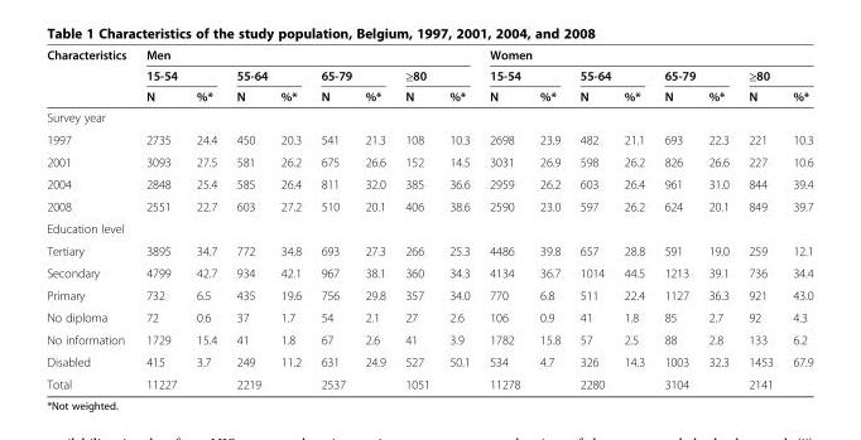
<table><thead><tr><td rowspan="3">Characteristics</td><td colspan="8">Men</td><td colspan="8">Women</td></tr><tr><td colspan="2">15-54</td><td colspan="2">55-64</td><td colspan="2">65-79</td><td colspan="2">≥80</td><td colspan="2">15-54</td><td colspan="2">55-64</td><td colspan="2">65-79</td><td colspan="2">≥80</td></tr><tr><td>N</td><td>%*</td><td>N</td><td>%*</td><td>N</td><td>%*</td><td>N</td><td>%*</td><td>N</td><td>%*</td><td>N</td><td>%*</td><td>N</td><td>%*</td><td>N</td><td>%*</td></tr></thead><tbody><tr><td colspan="17">Survey year</td></tr><tr><td>1997</td><td>2735</td><td>24.4</td><td>450</td><td>20.3</td><td>541</td><td>21.3</td><td>108</td><td>10.3</td><td>2698</td><td>23.9</td><td>482</td><td>21.1</td><td>693</td><td>22.3</td><td>221</td><td>10.3</td></tr><tr><td>2001</td><td>3093</td><td>27.5</td><td>581</td><td>26.2</td><td>675</td><td>26.6</td><td>152</td><td>14.5</td><td>3031</td><td>26.9</td><td>598</td><td>26.2</td><td>826</td><td>26.6</td><td>227</td><td>10.6</td></tr><tr><td>2004</td><td>2848</td><td>25.4</td><td>585</td><td>26.4</td><td>811</td><td>32.0</td><td>385</td><td>36.6</td><td>2959</td><td>26.2</td><td>603</td><td>26.4</td><td>961</td><td>31.0</td><td>844</td><td>39.4</td></tr><tr><td>2008</td><td>2551</td><td>22.7</td><td>603</td><td>27.2</td><td>510</td><td>20.1</td><td>406</td><td>38.6</td><td>2590</td><td>23.0</td><td>597</td><td>26.2</td><td>624</td><td>20.1</td><td>849</td><td>39.7</td></tr><tr><td colspan="17">Education level</td></tr><tr><td>Tertiary</td><td>3895</td><td>34.7</td><td>772</td><td>34.8</td><td>693</td><td>27.3</td><td>266</td><td>25.3</td><td>4486</td><td>39.8</td><td>657</td><td>28.8</td><td>591</td><td>19.0</td><td>259</td><td>12.1</td></tr><tr><td>Secondary</td><td>4799</td><td>42.7</td><td>934</td><td>42.1</td><td>967</td><td>38.1</td><td>360</td><td>34.3</td><td>4134</td><td>36.7</td><td>1014</td><td>44.5</td><td>1213</td><td>39.1</td><td>736</td><td>34.4</td></tr><tr><td>Primary</td><td>732</td><td>6.5</td><td>435</td><td>19.6</td><td>756</td><td>29.8</td><td>357</td><td>34.0</td><td>770</td><td>6.8</td><td>511</td><td>22.4</td><td>1127</td><td>36.3</td><td>921</td><td>43.0</td></tr><tr><td>No diploma</td><td>72</td><td>0.6</td><td>37</td><td>1.7</td><td>54</td><td>2.1</td><td>27</td><td>2.6</td><td>106</td><td>0.9</td><td>41</td><td>1.8</td><td>85</td><td>2.7</td><td>92</td><td>4.3</td></tr><tr><td>No information</td><td>1729</td><td>15.4</td><td>41</td><td>1.8</td><td>67</td><td>2.6</td><td>41</td><td>3.9</td><td>1782</td><td>15.8</td><td>57</td><td>2.5</td><td>88</td><td>2.8</td><td>133</td><td>6.2</td></tr><tr><td>Disabled</td><td>415</td><td>3.7</td><td>249</td><td>11.2</td><td>631</td><td>24.9</td><td>527</td><td>50.1</td><td>534</td><td>4.7</td><td>326</td><td>14.3</td><td>1003</td><td>32.3</td><td>1453</td><td>67.9</td></tr><tr><td>Total</td><td>11227</td><td></td><td>2219</td><td></td><td>2537</td><td></td><td>1051</td><td></td><td>11278</td><td></td><td>2280</td><td></td><td>3104</td><td></td><td>2141</td><td></td></tr></tbody></table>